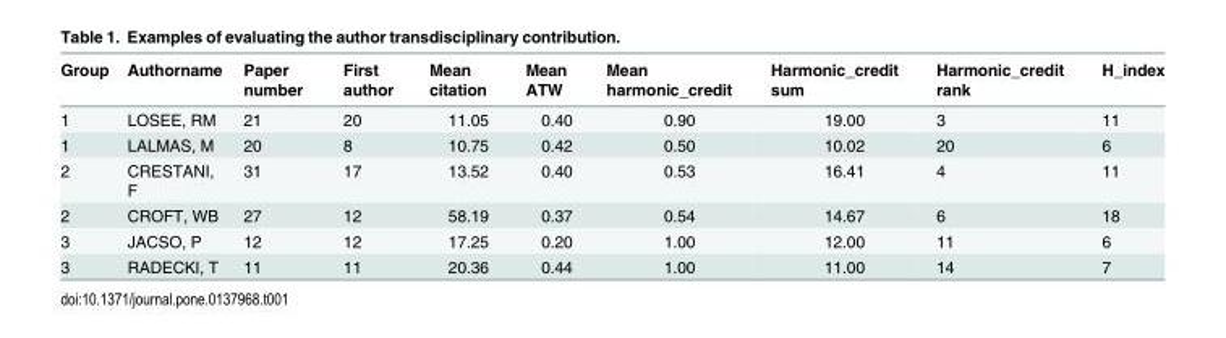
<table><thead><tr><td>Group</td><td>Authorname</td><td>Paper number</td><td>First author</td><td>Mean citation</td><td>Mean ATW</td><td>Mean harmonic_credit</td><td>Harmonic_credit sum</td><td>Harmonic_credit rank</td><td>H_index</td></tr></thead><tbody><tr><td>1</td><td>LOSEE, RM</td><td>21</td><td>20</td><td>11.05</td><td>0.40</td><td>0.90</td><td>19.00</td><td>3</td><td>11</td></tr><tr><td>1</td><td>LALMAS, M</td><td>20</td><td>8</td><td>10.75</td><td>0.42</td><td>0.50</td><td>10.02</td><td>20</td><td>6</td></tr><tr><td>2</td><td>CRESTANI, F</td><td>31</td><td>17</td><td>13.52</td><td>0.40</td><td>0.53</td><td>16.41</td><td>4</td><td>11</td></tr><tr><td>2</td><td>CROFT, WB</td><td>27</td><td>12</td><td>58.19</td><td>0.37</td><td>0.54</td><td>14.67</td><td>6</td><td>18</td></tr><tr><td>3</td><td>JACSO, P</td><td>12</td><td>12</td><td>17.25</td><td>0.20</td><td>1.00</td><td>12.00</td><td>11</td><td>6</td></tr><tr><td>3</td><td>RADECKI, T</td><td>11</td><td>11</td><td>20.36</td><td>0.44</td><td>1.00</td><td>11.00</td><td>14</td><td>7</td></tr></tbody></table>